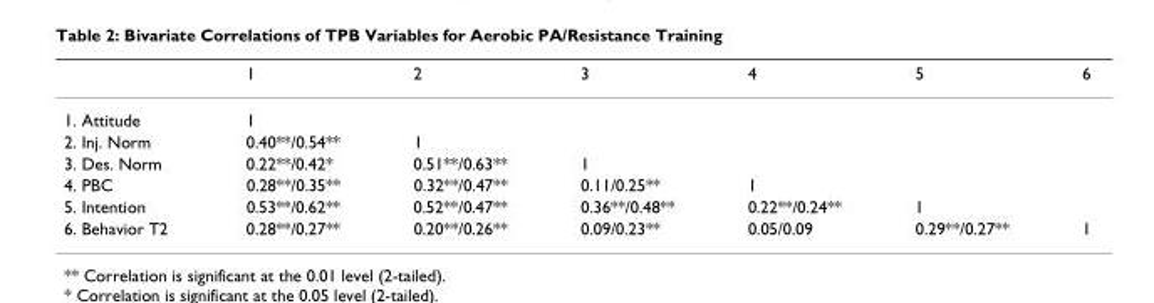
<table><thead><tr><td></td><td>1</td><td>2</td><td>3</td><td>4</td><td>5</td><td>6</td></tr></thead><tbody><tr><td>1. Attitude</td><td>1</td><td></td><td></td><td></td><td></td><td></td></tr><tr><td>2. Inj. Norm</td><td>0.40**/0.54**</td><td>1</td><td></td><td></td><td></td><td></td></tr><tr><td>3. Des. Norm</td><td>0.22**/0.42*</td><td>0.51**/0.63**</td><td>1</td><td></td><td></td><td></td></tr><tr><td>4. PBC</td><td>0.28**/0.35**</td><td>0.32**/0.47**</td><td>0.11/0.25**</td><td>1</td><td></td><td></td></tr><tr><td>5. Intention</td><td>0.53**/0.62**</td><td>0.52**/0.47**</td><td>0.36**/0.48**</td><td>0.22**/0.24**</td><td>1</td><td></td></tr><tr><td>6. Behavior T2</td><td>0.28**/0.27**</td><td>0.20**/0.26**</td><td>0.09/0.23**</td><td>0.05/0.09</td><td>0.29**/0.27**</td><td>1</td></tr></tbody></table>